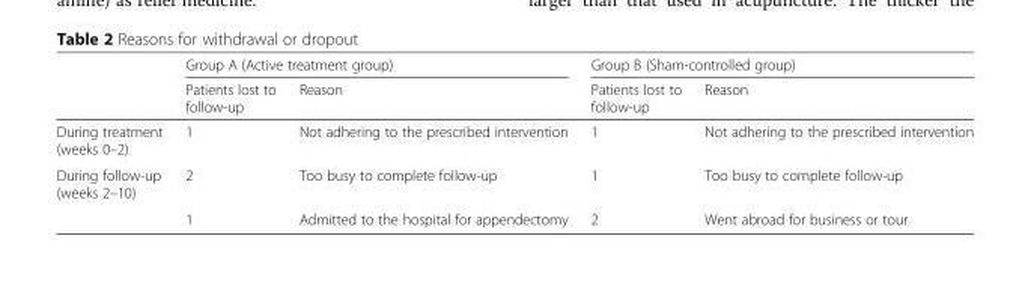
<table><thead><tr><td rowspan="2"></td><td colspan="2">Group A (Active treatment group)</td><td colspan="2">Group B (Sham-controlled group)</td></tr><tr><td>Patients lost to follow-up</td><td>Reason</td><td>Patients lost to follow-up</td><td>Reason</td></tr></thead><tbody><tr><td>During treatment (weeks 0–2)</td><td>1</td><td>Not adhering to the prescribed intervention</td><td>1</td><td>Not adhering to the prescribed intervention</td></tr><tr><td rowspan="2">During follow-up (weeks 2–10)</td><td>2</td><td>Too busy to complete follow-up</td><td>1</td><td>Too busy to complete follow-up</td></tr><tr><td>1</td><td>Admitted to the hospital for appendectomy</td><td>2</td><td>Went abroad for business or tour</td></tr></tbody></table>